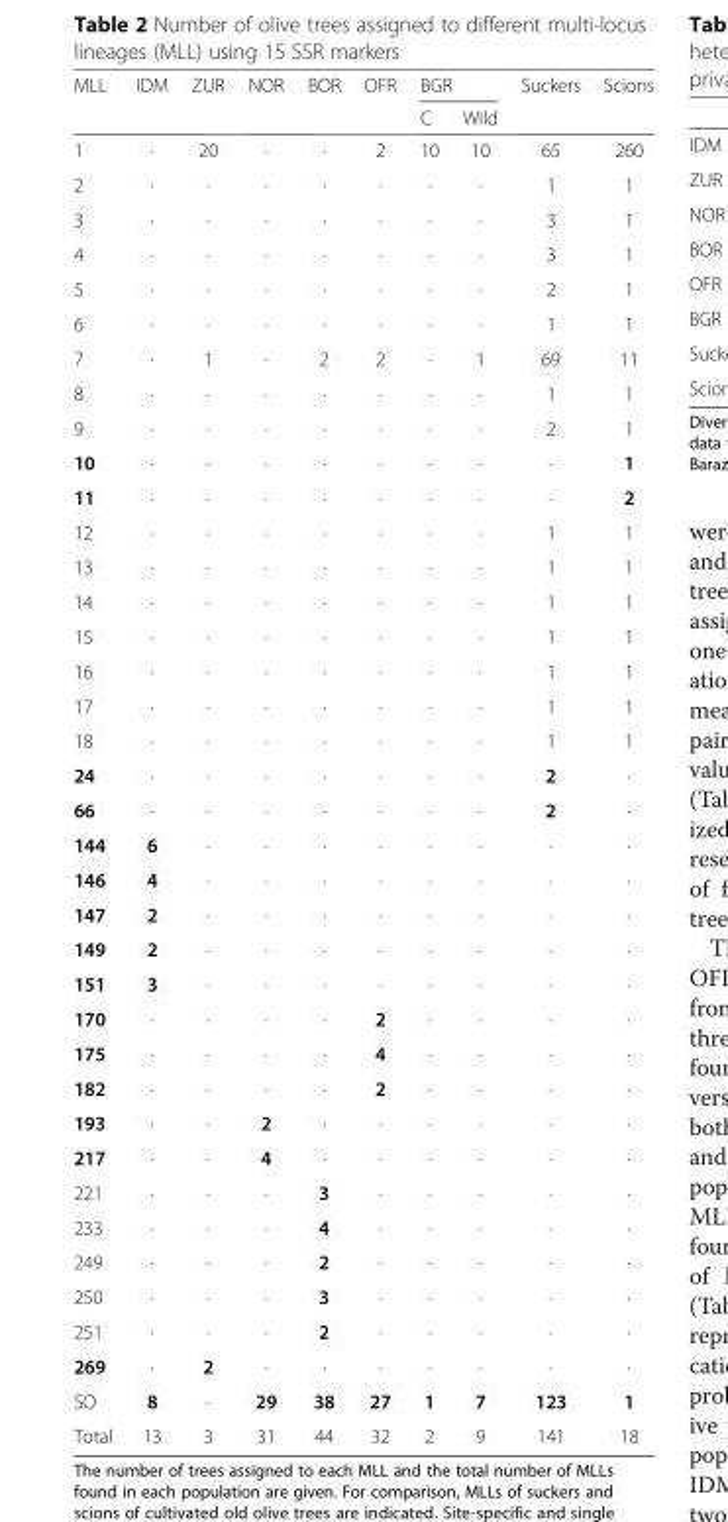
<table><thead><tr><td rowspan="2">MLL</td><td rowspan="2">IDM</td><td rowspan="2">ZUR</td><td rowspan="2">NOR</td><td rowspan="2">BOR</td><td rowspan="2">OFR</td><td colspan="2">BGR</td><td rowspan="2">Suckers</td><td rowspan="2">Scions</td></tr><tr><td>C</td><td>Wild</td></tr></thead><tbody><tr><td>1</td><td>·</td><td>20</td><td>·</td><td>·</td><td>2</td><td>10</td><td>10</td><td>65</td><td>260</td></tr><tr><td>2</td><td>·</td><td>·</td><td>·</td><td>·</td><td>·</td><td>·</td><td>·</td><td>1</td><td>1</td></tr><tr><td>3</td><td>·</td><td>·</td><td>·</td><td>·</td><td>·</td><td>·</td><td>·</td><td>3</td><td>1</td></tr><tr><td>4</td><td>·</td><td>·</td><td>·</td><td>·</td><td>·</td><td>·</td><td>·</td><td>3</td><td>1</td></tr><tr><td>5</td><td>·</td><td>·</td><td>·</td><td>·</td><td>·</td><td>·</td><td>·</td><td>2</td><td>1</td></tr><tr><td>6</td><td>·</td><td>·</td><td>·</td><td>·</td><td>·</td><td>·</td><td>·</td><td>1</td><td>1</td></tr><tr><td>7</td><td>·</td><td>1</td><td>·</td><td>2</td><td>2</td><td>·</td><td>1</td><td>69</td><td>11</td></tr><tr><td>8</td><td>·</td><td>·</td><td>·</td><td>·</td><td>·</td><td>·</td><td>·</td><td>1</td><td>1</td></tr><tr><td>9</td><td>·</td><td>·</td><td>·</td><td>·</td><td>·</td><td>·</td><td>·</td><td>2</td><td>1</td></tr><tr><td>10</td><td>·</td><td>·</td><td>·</td><td>·</td><td>·</td><td>·</td><td>·</td><td>·</td><td>1</td></tr><tr><td>11</td><td>·</td><td>·</td><td>·</td><td>·</td><td>·</td><td>·</td><td>·</td><td>·</td><td>2</td></tr><tr><td>12</td><td>·</td><td>·</td><td>·</td><td>·</td><td>·</td><td>·</td><td>·</td><td>1</td><td>1</td></tr><tr><td>13</td><td>·</td><td>·</td><td>·</td><td>·</td><td>·</td><td>·</td><td>·</td><td>1</td><td>1</td></tr><tr><td>14</td><td>·</td><td>·</td><td>·</td><td>·</td><td>·</td><td>·</td><td>·</td><td>1</td><td>1</td></tr><tr><td>15</td><td>·</td><td>·</td><td>·</td><td>·</td><td>·</td><td>·</td><td>·</td><td>1</td><td>1</td></tr><tr><td>16</td><td>·</td><td>·</td><td>·</td><td>·</td><td>·</td><td>·</td><td>·</td><td>1</td><td>1</td></tr><tr><td>17</td><td>·</td><td>·</td><td>·</td><td>·</td><td>·</td><td>·</td><td>·</td><td>1</td><td>1</td></tr><tr><td>18</td><td>·</td><td>·</td><td>·</td><td>·</td><td>·</td><td>·</td><td>·</td><td>1</td><td>1</td></tr><tr><td>24</td><td>·</td><td>·</td><td>·</td><td>·</td><td>·</td><td>·</td><td>·</td><td>2</td><td>·</td></tr><tr><td>66</td><td>·</td><td>·</td><td>·</td><td>·</td><td>·</td><td>·</td><td>·</td><td>2</td><td>·</td></tr><tr><td>144</td><td>6</td><td>·</td><td>·</td><td>·</td><td>·</td><td>·</td><td>·</td><td>·</td><td>·</td></tr><tr><td>146</td><td>4</td><td>·</td><td>·</td><td>·</td><td>·</td><td>·</td><td>·</td><td>·</td><td>·</td></tr><tr><td>147</td><td>2</td><td>·</td><td>·</td><td>·</td><td>·</td><td>·</td><td>·</td><td>·</td><td>·</td></tr><tr><td>149</td><td>2</td><td>·</td><td>·</td><td>·</td><td>·</td><td>·</td><td>·</td><td>·</td><td>·</td></tr><tr><td>151</td><td>3</td><td>·</td><td>·</td><td>·</td><td>·</td><td>·</td><td>·</td><td>·</td><td>·</td></tr><tr><td>170</td><td>·</td><td>·</td><td>·</td><td>·</td><td>2</td><td>·</td><td>·</td><td>·</td><td>·</td></tr><tr><td>175</td><td>·</td><td>·</td><td>·</td><td>·</td><td>4</td><td>·</td><td>·</td><td>·</td><td>·</td></tr><tr><td>182</td><td>·</td><td>·</td><td>·</td><td>·</td><td>2</td><td>·</td><td>·</td><td>·</td><td>·</td></tr><tr><td>193</td><td>·</td><td>·</td><td>2</td><td>·</td><td>·</td><td>·</td><td>·</td><td>·</td><td>·</td></tr><tr><td>217</td><td>·</td><td>·</td><td>4</td><td>·</td><td>·</td><td>·</td><td>·</td><td>·</td><td>·</td></tr><tr><td>221</td><td>·</td><td>·</td><td>·</td><td>3</td><td>·</td><td>·</td><td>·</td><td>·</td><td>·</td></tr><tr><td>233</td><td>·</td><td>·</td><td>·</td><td>4</td><td>·</td><td>·</td><td>·</td><td>·</td><td>·</td></tr><tr><td>249</td><td>·</td><td>·</td><td>·</td><td>2</td><td>·</td><td>·</td><td>·</td><td>·</td><td>·</td></tr><tr><td>250</td><td>·</td><td>·</td><td>·</td><td>3</td><td>·</td><td>·</td><td>·</td><td>·</td><td>·</td></tr><tr><td>251</td><td>·</td><td>·</td><td>·</td><td>2</td><td>·</td><td>·</td><td>·</td><td>·</td><td>·</td></tr><tr><td>269</td><td>·</td><td>2</td><td>·</td><td>·</td><td>·</td><td>·</td><td>·</td><td>·</td><td>·</td></tr><tr><td>SO</td><td>8</td><td>·</td><td>29</td><td>38</td><td>27</td><td>1</td><td>7</td><td>123</td><td>1</td></tr><tr><td>Total</td><td>13</td><td>3</td><td>31</td><td>44</td><td>32</td><td>2</td><td>9</td><td>141</td><td>18</td></tr></tbody></table>